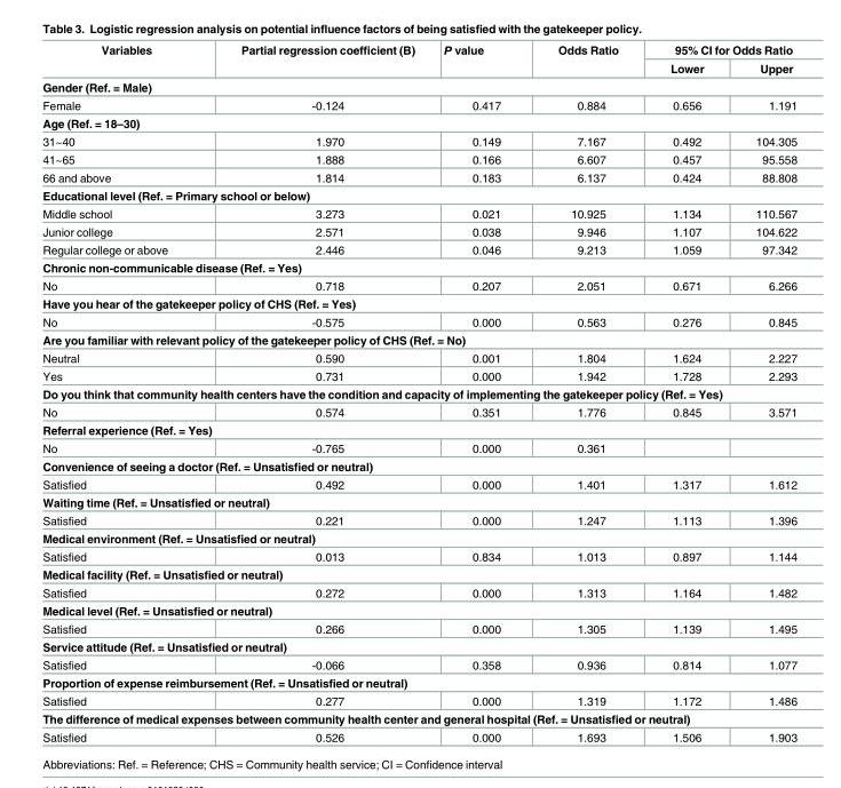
<table><thead><tr><td rowspan="2">Variables</td><td rowspan="2">Partial regression coefficient (B)</td><td rowspan="2">P value</td><td rowspan="2">Odds Ratio</td><td colspan="2">95% CI for Odds Ratio</td></tr><tr><td>Lower</td><td>Upper</td></tr></thead><tbody><tr><td colspan="6">Gender (Ref. = Male)</td></tr><tr><td>Female</td><td>-0.124</td><td>0.417</td><td>0.884</td><td>0.656</td><td>1.191</td></tr><tr><td colspan="6">Age (Ref. = 18–30)</td></tr><tr><td>31~40</td><td>1.970</td><td>0.149</td><td>7.167</td><td>0.492</td><td>104.305</td></tr><tr><td>41~65</td><td>1.888</td><td>0.166</td><td>6.607</td><td>0.457</td><td>95.558</td></tr><tr><td>66 and above</td><td>1.814</td><td>0.183</td><td>6.137</td><td>0.424</td><td>88.808</td></tr><tr><td colspan="6">Educational level (Ref. = Primary school or below)</td></tr><tr><td>Middle school</td><td>3.273</td><td>0.021</td><td>10.925</td><td>1.134</td><td>110.567</td></tr><tr><td>Junior college</td><td>2.571</td><td>0.038</td><td>9.946</td><td>1.107</td><td>104.622</td></tr><tr><td>Regular college or above</td><td>2.446</td><td>0.046</td><td>9.213</td><td>1.059</td><td>97.342</td></tr><tr><td colspan="6">Chronic non-communicable disease (Ref. = Yes)</td></tr><tr><td>No</td><td>0.718</td><td>0.207</td><td>2.051</td><td>0.671</td><td>6.266</td></tr><tr><td colspan="6">Have you hear of the gatekeeper policy of CHS (Ref. = Yes)</td></tr><tr><td>No</td><td>-0.575</td><td>0.000</td><td>0.563</td><td>0.276</td><td>0.845</td></tr><tr><td colspan="6">Are you familiar with relevant policy of the gatekeeper policy of CHS (Ref. = No)</td></tr><tr><td>Neutral</td><td>0.590</td><td>0.001</td><td>1.804</td><td>1.624</td><td>2.227</td></tr><tr><td>Yes</td><td>0.731</td><td>0.000</td><td>1.942</td><td>1.728</td><td>2.293</td></tr><tr><td colspan="6">Do you think that community health centers have the condition and capacity of implementing the gatekeeper policy (Ref. = Yes)</td></tr><tr><td>No</td><td>0.574</td><td>0.351</td><td>1.776</td><td>0.845</td><td>3.571</td></tr><tr><td colspan="6">Referral experience (Ref. = Yes)</td></tr><tr><td>No</td><td>-0.765</td><td>0.000</td><td>0.361</td><td></td><td></td></tr><tr><td colspan="6">Convenience of seeing a doctor (Ref. = Unsatisfied or neutral)</td></tr><tr><td>Satisfied</td><td>0.492</td><td>0.000</td><td>1.401</td><td>1.317</td><td>1.612</td></tr><tr><td colspan="6">Waiting time (Ref. = Unsatisfied or neutral)</td></tr><tr><td>Satisfied</td><td>0.221</td><td>0.000</td><td>1.247</td><td>1.113</td><td>1.396</td></tr><tr><td colspan="6">Medical environment (Ref. = Unsatisfied or neutral)</td></tr><tr><td>Satisfied</td><td>0.013</td><td>0.834</td><td>1.013</td><td>0.897</td><td>1.144</td></tr><tr><td colspan="6">Medical facility (Ref. = Unsatisfied or neutral)</td></tr><tr><td>Satisfied</td><td>0.272</td><td>0.000</td><td>1.313</td><td>1.164</td><td>1.482</td></tr><tr><td colspan="6">Medical level (Ref. = Unsatisfied or neutral)</td></tr><tr><td>Satisfied</td><td>0.266</td><td>0.000</td><td>1.305</td><td>1.139</td><td>1.495</td></tr><tr><td colspan="6">Service attitude (Ref. = Unsatisfied or neutral)</td></tr><tr><td>Satisfied</td><td>-0.066</td><td>0.358</td><td>0.936</td><td>0.814</td><td>1.077</td></tr><tr><td colspan="6">Proportion of expense reimbursement (Ref. = Unsatisfied or neutral)</td></tr><tr><td>Satisfied</td><td>0.277</td><td>0.000</td><td>1.319</td><td>1.172</td><td>1.486</td></tr><tr><td colspan="6">The difference of medical expenses between community health center and general hospital (Ref. = Unsatisfied or neutral)</td></tr><tr><td>Satisfied</td><td>0.526</td><td>0.000</td><td>1.693</td><td>1.506</td><td>1.903</td></tr></tbody></table>